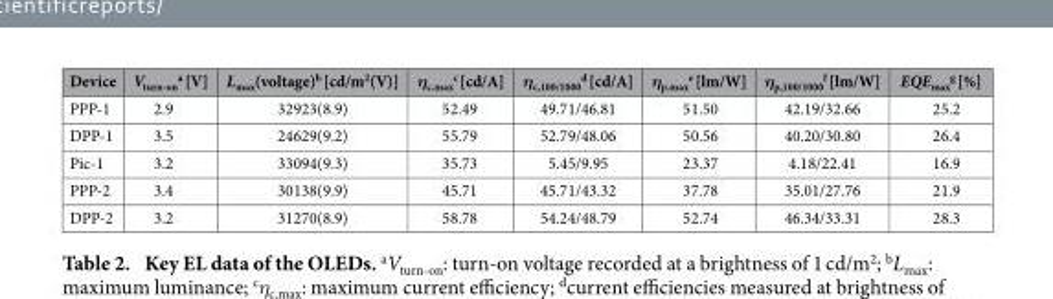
<table><thead><tr><td>Device</td><td>V<sub>turn-on</sub> <sup>a</sup> [V]</td><td>L<sub>max</sub>(voltage)<sup>b</sup> [cd/m<sup>2</sup>(V)]</td><td>η<sub>c.max</sub> <sup>c</sup> [cd/A]</td><td>η<sub>c,100/1000</sub> <sup>d</sup> [cd/A]</td><td>η<sub>p.max</sub> <sup>e</sup> [lm/W]</td><td>η<sub>p,100/1000</sub> <sup>f</sup> [lm/W]</td><td>EQE<sub>max</sub> <sup>g</sup> [%]</td></tr></thead><tbody><tr><td>PPP-1</td><td>2.9</td><td>32923(8.9)</td><td>52.49</td><td>49.71/46.81</td><td>51.50</td><td>42.19/32.66</td><td>25.2</td></tr><tr><td>DPP-1</td><td>3.5</td><td>24629(9.2)</td><td>55.79</td><td>52.79/48.06</td><td>50.56</td><td>40.20/30.80</td><td>26.4</td></tr><tr><td>Pic-1</td><td>3.2</td><td>33094(9.3)</td><td>35.73</td><td>5.45/9.95</td><td>23.37</td><td>4.18/22.41</td><td>16.9</td></tr><tr><td>PPP-2</td><td>3.4</td><td>30138(9.9)</td><td>45.71</td><td>45.71/43.32</td><td>37.78</td><td>35.01/27.76</td><td>21.9</td></tr><tr><td>DPP-2</td><td>3.2</td><td>31270(8.9)</td><td>58.78</td><td>54.24/48.79</td><td>52.74</td><td>46.34/33.31</td><td>28.3</td></tr></tbody></table>